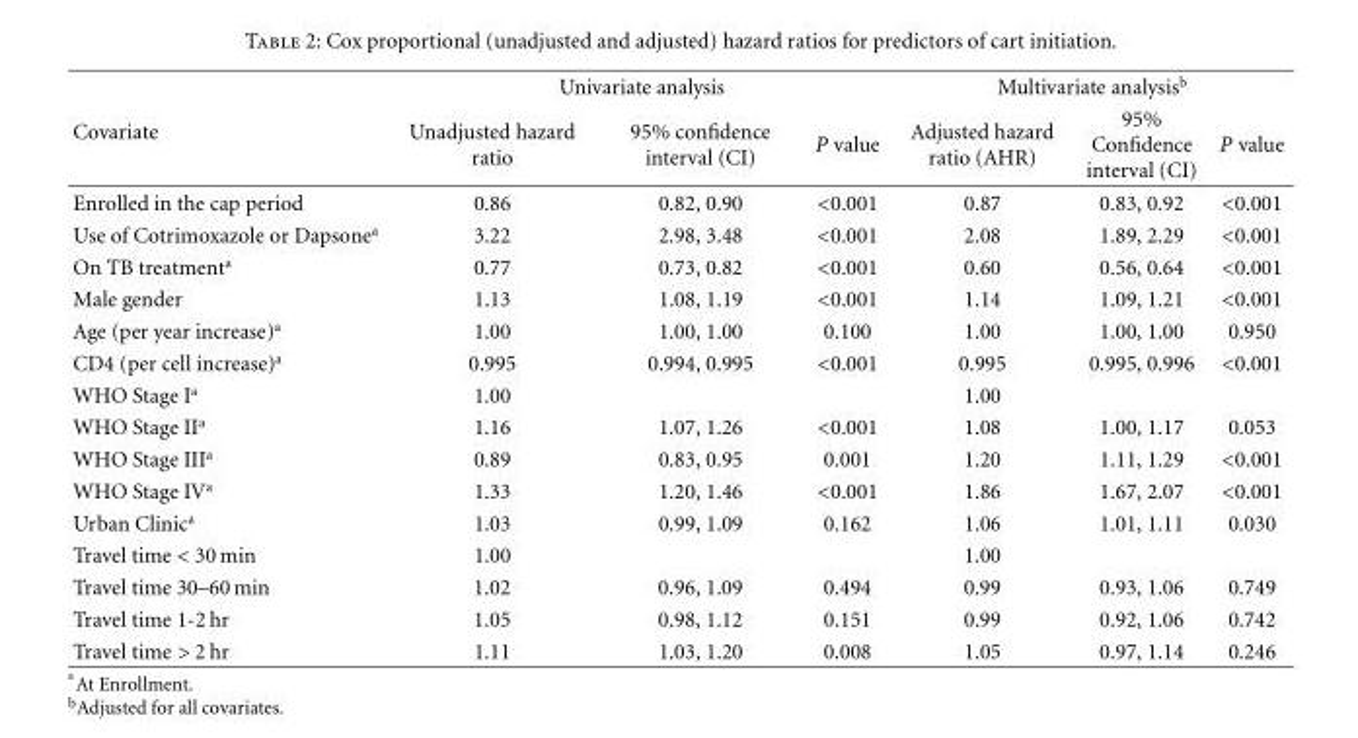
<table><thead><tr><td rowspan="2">Covariate</td><td colspan="3">Univariate analysis</td><td colspan="3">Multivariate analysis<sup>b</sup></td></tr><tr><td>Unadjusted hazard ratio</td><td>95% confidence interval (CI)</td><td>P value</td><td>Adjusted hazard ratio (AHR)</td><td>95% Confidence interval (CI)</td><td>P value</td></tr></thead><tbody><tr><td>Enrolled in the cap period</td><td>0.86</td><td>0.82, 0.90</td><td>&lt;0.001</td><td>0.87</td><td>0.83, 0.92</td><td>&lt;0.001</td></tr><tr><td>Use of Cotrimoxazole or Dapsone<sup>a</sup></td><td>3.22</td><td>2.98, 3.48</td><td>&lt;0.001</td><td>2.08</td><td>1.89, 2.29</td><td>&lt;0.001</td></tr><tr><td>On TB treatment<sup>a</sup></td><td>0.77</td><td>0.73, 0.82</td><td>&lt;0.001</td><td>0.60</td><td>0.56, 0.64</td><td>&lt;0.001</td></tr><tr><td>Male gender</td><td>1.13</td><td>1.08, 1.19</td><td>&lt;0.001</td><td>1.14</td><td>1.09, 1.21</td><td>&lt;0.001</td></tr><tr><td>Age (per year increase)<sup>a</sup></td><td>1.00</td><td>1.00, 1.00</td><td>0.100</td><td>1.00</td><td>1.00, 1.00</td><td>0.950</td></tr><tr><td>CD4 (per cell increase)<sup>a</sup></td><td>0.995</td><td>0.994, 0.995</td><td>&lt;0.001</td><td>0.995</td><td>0.995, 0.996</td><td>&lt;0.001</td></tr><tr><td>WHO Stage I<sup>a</sup></td><td>1.00</td><td></td><td></td><td>1.00</td><td></td><td></td></tr><tr><td>WHO Stage II<sup>a</sup></td><td>1.16</td><td>1.07, 1.26</td><td>&lt;0.001</td><td>1.08</td><td>1.00, 1.17</td><td>0.053</td></tr><tr><td>WHO Stage III<sup>a</sup></td><td>0.89</td><td>0.83, 0.95</td><td>0.001</td><td>1.20</td><td>1.11, 1.29</td><td>&lt;0.001</td></tr><tr><td>WHO Stage IV<sup>a</sup></td><td>1.33</td><td>1.20, 1.46</td><td>&lt;0.001</td><td>1.86</td><td>1.67, 2.07</td><td>&lt;0.001</td></tr><tr><td>Urban Clinic<sup>a</sup></td><td>1.03</td><td>0.99, 1.09</td><td>0.162</td><td>1.06</td><td>1.01, 1.11</td><td>0.030</td></tr><tr><td>Travel time &lt; 30 min</td><td>1.00</td><td></td><td></td><td>1.00</td><td></td><td></td></tr><tr><td>Travel time 30–60 min</td><td>1.02</td><td>0.96, 1.09</td><td>0.494</td><td>0.99</td><td>0.93, 1.06</td><td>0.749</td></tr><tr><td>Travel time 1-2 hr</td><td>1.05</td><td>0.98, 1.12</td><td>0.151</td><td>0.99</td><td>0.92, 1.06</td><td>0.742</td></tr><tr><td>Travel time &gt; 2 hr</td><td>1.11</td><td>1.03, 1.20</td><td>0.008</td><td>1.05</td><td>0.97, 1.14</td><td>0.246</td></tr></tbody></table>